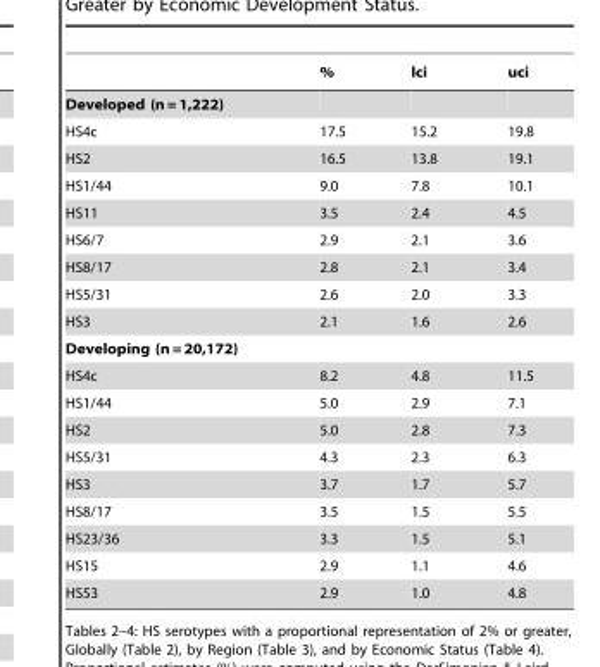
<table><thead><tr><td></td><td>%</td><td>lci</td><td>uci</td></tr></thead><tbody><tr><td colspan="4">Developed (n = 1,222)</td></tr><tr><td>HS4c</td><td>17.5</td><td>15.2</td><td>19.8</td></tr><tr><td>HS2</td><td>16.5</td><td>13.8</td><td>19.1</td></tr><tr><td>HS1/44</td><td>9.0</td><td>7.8</td><td>10.1</td></tr><tr><td>HS11</td><td>3.5</td><td>2.4</td><td>4.5</td></tr><tr><td>HS6/7</td><td>2.9</td><td>2.1</td><td>3.6</td></tr><tr><td>HS8/17</td><td>2.8</td><td>2.1</td><td>3.4</td></tr><tr><td>HS5/31</td><td>2.6</td><td>2.0</td><td>3.3</td></tr><tr><td>HS3</td><td>2.1</td><td>1.6</td><td>2.6</td></tr><tr><td colspan="4">Developing (n = 20,172)</td></tr><tr><td>HS4c</td><td>8.2</td><td>4.8</td><td>11.5</td></tr><tr><td>HS1/44</td><td>5.0</td><td>2.9</td><td>7.1</td></tr><tr><td>HS2</td><td>5.0</td><td>2.8</td><td>7.3</td></tr><tr><td>HS5/31</td><td>4.3</td><td>2.3</td><td>6.3</td></tr><tr><td>HS3</td><td>3.7</td><td>1.7</td><td>5.7</td></tr><tr><td>HS8/17</td><td>3.5</td><td>1.5</td><td>5.5</td></tr><tr><td>HS23/36</td><td>3.3</td><td>1.5</td><td>5.1</td></tr><tr><td>HS15</td><td>2.9</td><td>1.1</td><td>4.6</td></tr><tr><td>HS53</td><td>2.9</td><td>1.0</td><td>4.8</td></tr></tbody></table>